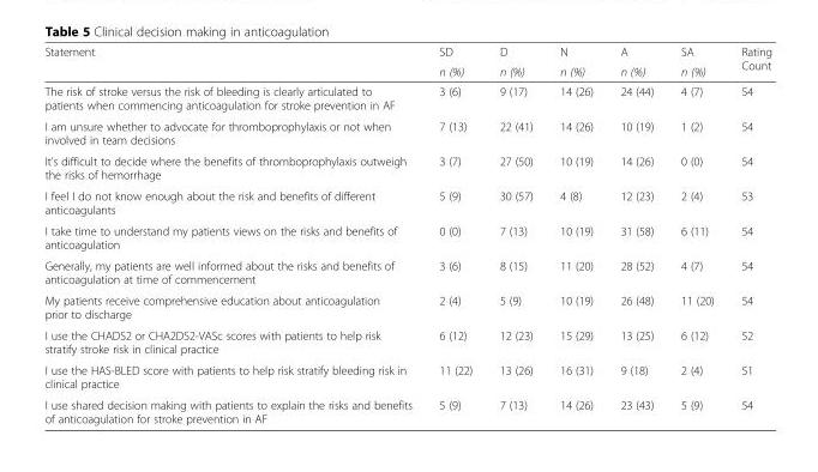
<table><thead><tr><td rowspan="2">Statement</td><td rowspan="2">SD n (%)</td><td rowspan="2">D n (%)</td><td rowspan="2">N n (%)</td><td rowspan="2">A n (%)</td><td rowspan="2">SA n (%)</td><td rowspan="2">Rating Count</td></tr><tr></tr></thead><tbody><tr><td>The risk of stroke versus the risk of bleeding is clearly articulated to patients when commencing anticoagulation for stroke prevention in AF</td><td>3 (6)</td><td>9 (17)</td><td>14 (26)</td><td>24 (44)</td><td>4 (7)</td><td>54</td></tr><tr><td>I am unsure whether to advocate for thromboprophylaxis or not when involved in team decisions</td><td>7 (13)</td><td>22 (41)</td><td>14 (26)</td><td>10 (19)</td><td>1 (2)</td><td>54</td></tr><tr><td>It’s difficult to decide where the benefits of thromboprophylaxis outweigh the risks of hemorrhage</td><td>3 (7)</td><td>27 (50)</td><td>10 (19)</td><td>14 (26)</td><td>0 (0)</td><td>54</td></tr><tr><td>I feel I do not know enough about the risk and benefits of different anticoagulants</td><td>5 (9)</td><td>30 (57)</td><td>4 (8)</td><td>12 (23)</td><td>2 (4)</td><td>53</td></tr><tr><td>I take time to understand my patients views on the risks and benefits of anticoagulation</td><td>0 (0)</td><td>7 (13)</td><td>10 (19)</td><td>31 (58)</td><td>6 (11)</td><td>54</td></tr><tr><td>Generally, my patients are well informed about the risks and benefits of anticoagulation at time of commencement</td><td>3 (6)</td><td>8 (15)</td><td>11 (20)</td><td>28 (52)</td><td>4 (7)</td><td>54</td></tr><tr><td>My patients receive comprehensive education about anticoagulation prior to discharge</td><td>2 (4)</td><td>5 (9)</td><td>10 (19)</td><td>26 (48)</td><td>11 (20)</td><td>54</td></tr><tr><td>I use the CHADS2 or CHA2DS2-VASc scores with patients to help risk stratify stroke risk in clinical practice</td><td>6 (12)</td><td>12 (23)</td><td>15 (29)</td><td>13 (25)</td><td>6 (12)</td><td>52</td></tr><tr><td>I use the HAS-BLED score with patients to help risk stratify bleeding risk in clinical practice</td><td>11 (22)</td><td>13 (26)</td><td>16 (31)</td><td>9 (18)</td><td>2 (4)</td><td>51</td></tr><tr><td>I use shared decision making with patients to explain the risks and benefits of anticoagulation for stroke prevention in AF</td><td>5 (9)</td><td>7 (13)</td><td>14 (26)</td><td>23 (43)</td><td>5 (9)</td><td>54</td></tr></tbody></table>